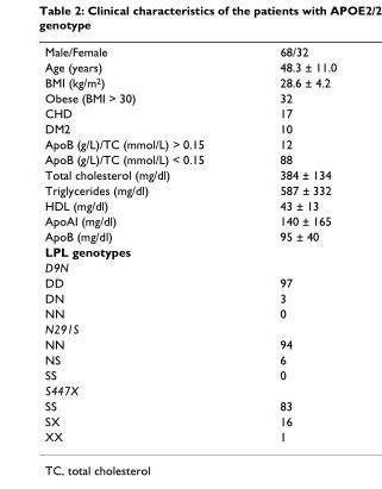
<table><tbody><tr><td>Male/Female</td><td>68/32</td></tr><tr><td>Age (years)</td><td>48.3 ± 11.0</td></tr><tr><td>BMI (kg/m<sup>2</sup>)</td><td>28.6 ± 4.2</td></tr><tr><td>Obese (BMI &gt; 30)</td><td>32</td></tr><tr><td>CHD</td><td>17</td></tr><tr><td>DM2</td><td>10</td></tr><tr><td>ApoB (g/L)/TC (mmol/L) &gt; 0.15</td><td>12</td></tr><tr><td>ApoB (g/L)/TC (mmol/L) &lt; 0.15</td><td>88</td></tr><tr><td>Total cholesterol (mg/dl)</td><td>384 ± 134</td></tr><tr><td>Triglycerides (mg/dl)</td><td>587 ± 332</td></tr><tr><td>HDL (mg/dl)</td><td>43 ± 13</td></tr><tr><td>ApoAI (mg/dl)</td><td>140 ± 165</td></tr><tr><td>ApoB (mg/dl)</td><td>95 ± 40</td></tr><tr><td colspan="2">LPL genotypes</td></tr><tr><td colspan="2">D9N</td></tr><tr><td>DD</td><td>97</td></tr><tr><td>DN</td><td>3</td></tr><tr><td>NN</td><td>0</td></tr><tr><td colspan="2">N291S</td></tr><tr><td>NN</td><td>94</td></tr><tr><td>NS</td><td>6</td></tr><tr><td>SS</td><td>0</td></tr><tr><td colspan="2">S447X</td></tr><tr><td>SS</td><td>83</td></tr><tr><td>SX</td><td>16</td></tr><tr><td>XX</td><td>1</td></tr></tbody></table>